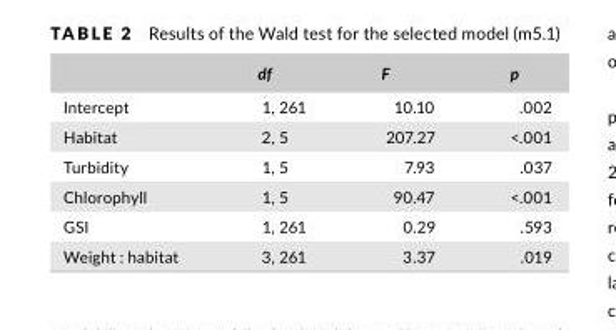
<table><thead><tr><td></td><td>df</td><td>F</td><td>p</td></tr></thead><tbody><tr><td>Intercept</td><td>1, 261</td><td>10.10</td><td>.002</td></tr><tr><td>Habitat</td><td>2, 5</td><td>207.27</td><td>&lt;.001</td></tr><tr><td>Turbidity</td><td>1, 5</td><td>7.93</td><td>.037</td></tr><tr><td>Chlorophyll</td><td>1, 5</td><td>90.47</td><td>&lt;.001</td></tr><tr><td>GSI</td><td>1, 261</td><td>0.29</td><td>.593</td></tr><tr><td>Weight : habitat</td><td>3, 261</td><td>3.37</td><td>.019</td></tr></tbody></table>